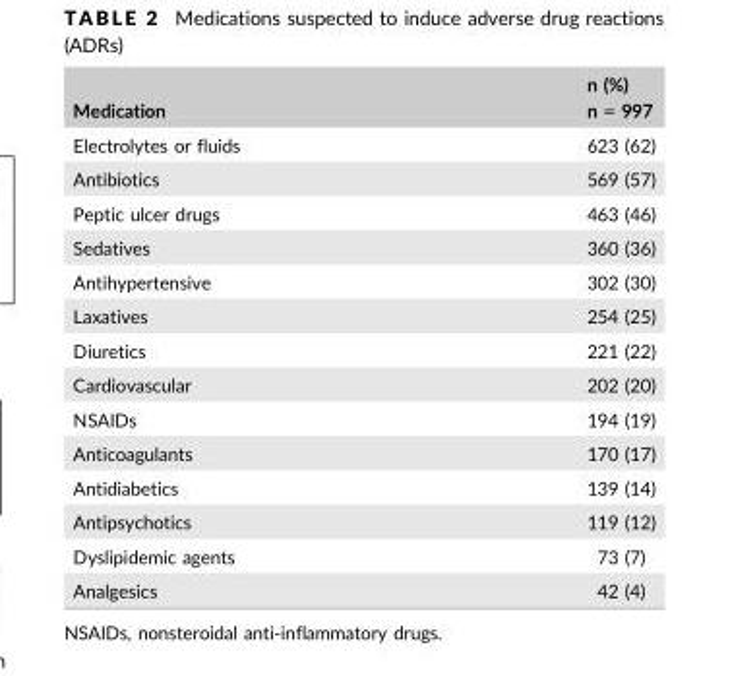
<table><thead><tr><td>Medication</td><td>n (%) n = 997</td></tr></thead><tbody><tr><td>Electrolytes or fluids</td><td>623 (62)</td></tr><tr><td>Antibiotics</td><td>569 (57)</td></tr><tr><td>Peptic ulcer drugs</td><td>463 (46)</td></tr><tr><td>Sedatives</td><td>360 (36)</td></tr><tr><td>Antihypertensive</td><td>302 (30)</td></tr><tr><td>Laxatives</td><td>254 (25)</td></tr><tr><td>Diuretics</td><td>221 (22)</td></tr><tr><td>Cardiovascular</td><td>202 (20)</td></tr><tr><td>NSAIDs</td><td>194 (19)</td></tr><tr><td>Anticoagulants</td><td>170 (17)</td></tr><tr><td>Antidiabetics</td><td>139 (14)</td></tr><tr><td>Antipsychotics</td><td>119 (12)</td></tr><tr><td>Dyslipidemic agents</td><td>73 (7)</td></tr><tr><td>Analgesics</td><td>42 (4)</td></tr></tbody></table>